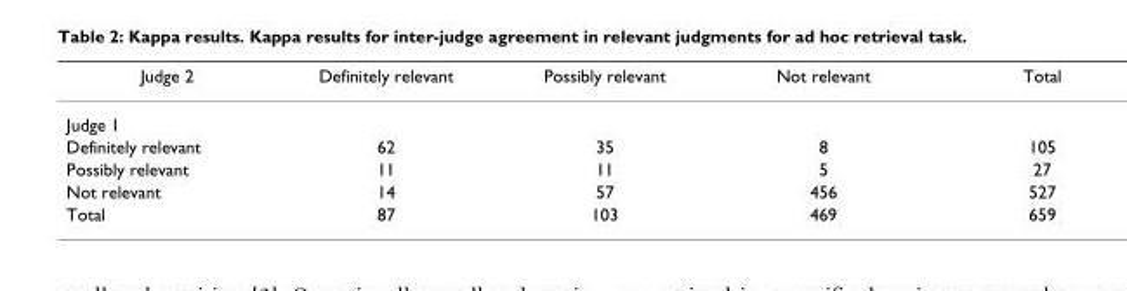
<table><thead><tr><td>Judge 2</td><td>Definitely relevant</td><td>Possibly relevant</td><td>Not relevant</td><td>Total</td></tr></thead><tbody><tr><td colspan="5">Judge 1</td></tr><tr><td>Definitely relevant</td><td>62</td><td>35</td><td>8</td><td>105</td></tr><tr><td>Possibly relevant</td><td>11</td><td>11</td><td>5</td><td>27</td></tr><tr><td>Not relevant</td><td>14</td><td>57</td><td>456</td><td>527</td></tr><tr><td>Total</td><td>87</td><td>103</td><td>469</td><td>659</td></tr></tbody></table>